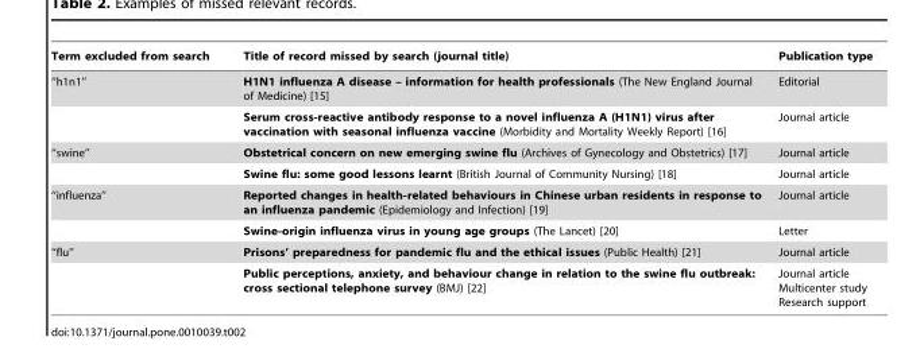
<table><thead><tr><td>Term excluded from search</td><td>Title of record missed by search (journal title)</td><td>Publication type</td></tr></thead><tbody><tr><td rowspan="2">‘‘h1n1’’</td><td>H1N1 influenza A disease – information for health professionals (The New England Journal of Medicine) [15]</td><td>Editorial</td></tr><tr><td>Serum cross-reactive antibody response to a novel influenza A (H1N1) virus after vaccination with seasonal influenza vaccine (Morbidity and Mortality Weekly Report) [16]</td><td>Journal article</td></tr><tr><td rowspan="2">‘‘swine’’</td><td>Obstetrical concern on new emerging swine flu (Archives of Gynecology and Obstetrics) [17]</td><td>Journal article</td></tr><tr><td>Swine flu: some good lessons learnt (British Journal of Community Nursing) [18]</td><td>Journal article</td></tr><tr><td rowspan="2">‘‘influenza’’</td><td>Reported changes in health-related behaviours in Chinese urban residents in response to an influenza pandemic (Epidemiology and Infection) [19]</td><td>Journal article</td></tr><tr><td>Swine-origin influenza virus in young age groups (The Lancet) [20]</td><td>Letter</td></tr><tr><td rowspan="2">‘‘flu’’</td><td>Prisons’ preparedness for pandemic flu and the ethical issues (Public Health) [21]</td><td>Journal article</td></tr><tr><td>Public perceptions, anxiety, and behaviour change in relation to the swine flu outbreak: cross sectional telephone survey (BMJ) [22]</td><td>Journal article Multicenter study Research support</td></tr></tbody></table>